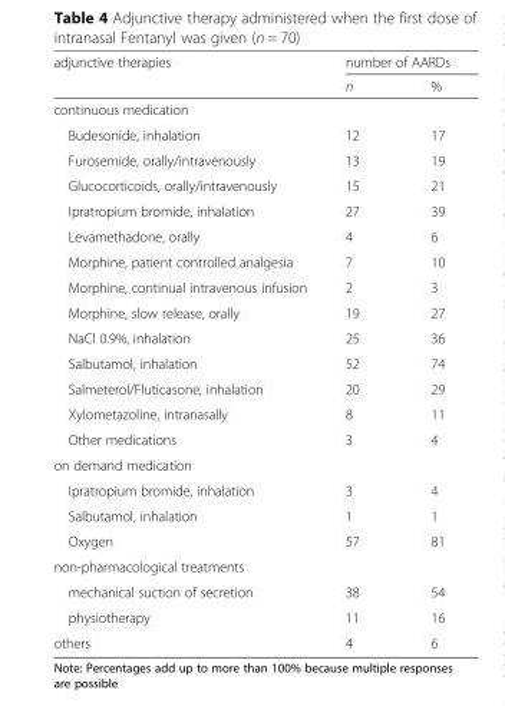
<table><thead><tr><td rowspan="2">adjunctive therapies</td><td colspan="2">number of AARDs</td></tr><tr><td>n</td><td>%</td></tr></thead><tbody><tr><td colspan="3">continuous medication</td></tr><tr><td>Budesonide, inhalation</td><td>12</td><td>17</td></tr><tr><td>Furosemide, orally/intravenously</td><td>13</td><td>19</td></tr><tr><td>Glucocorticoids, orally/intravenously</td><td>15</td><td>21</td></tr><tr><td>Ipratropium bromide, inhalation</td><td>27</td><td>39</td></tr><tr><td>Levamethadone, orally</td><td>4</td><td>6</td></tr><tr><td>Morphine, patient controlled analgesia</td><td>7</td><td>10</td></tr><tr><td>Morphine, continual intravenous infusion</td><td>2</td><td>3</td></tr><tr><td>Morphine, slow release, orally</td><td>19</td><td>27</td></tr><tr><td>NaCl 0.9%, inhalation</td><td>25</td><td>36</td></tr><tr><td>Salbutamol, inhalation</td><td>52</td><td>74</td></tr><tr><td>Salmeterol/Fluticasone, inhalation</td><td>20</td><td>29</td></tr><tr><td>Xylometazoline, intranasally</td><td>8</td><td>11</td></tr><tr><td>Other medications</td><td>3</td><td>4</td></tr><tr><td colspan="3">on demand medication</td></tr><tr><td>Ipratropium bromide, inhalation</td><td>3</td><td>4</td></tr><tr><td>Salbutamol, inhalation</td><td>1</td><td>1</td></tr><tr><td>Oxygen</td><td>57</td><td>81</td></tr><tr><td colspan="3">non-pharmacological treatments</td></tr><tr><td>mechanical suction of secretion</td><td>38</td><td>54</td></tr><tr><td>physiotherapy</td><td>11</td><td>16</td></tr><tr><td>others</td><td>4</td><td>6</td></tr></tbody></table>